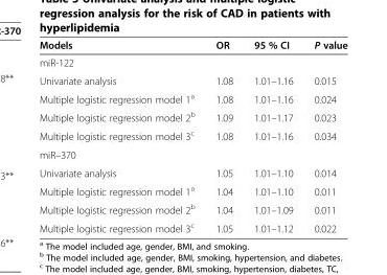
<table><thead><tr><td>Models</td><td>OR</td><td>95 % CI</td><td>P value</td></tr></thead><tbody><tr><td colspan="4">miR-122</td></tr><tr><td>Univariate analysis</td><td>1.08</td><td>1.01–1.16</td><td>0.015</td></tr><tr><td>Multiple logistic regression model 1<sup>a</sup></td><td>1.08</td><td>1.01–1.16</td><td>0.024</td></tr><tr><td>Multiple logistic regression model 2<sup>b</sup></td><td>1.09</td><td>1.01–1.17</td><td>0.023</td></tr><tr><td>Multiple logistic regression model 3<sup>c</sup></td><td>1.08</td><td>1.01–1.16</td><td>0.034</td></tr><tr><td colspan="4">miR–370</td></tr><tr><td>Univariate analysis</td><td>1.05</td><td>1.01–1.10</td><td>0.014</td></tr><tr><td>Multiple logistic regression model 1<sup>a</sup></td><td>1.04</td><td>1.01–1.10</td><td>0.011</td></tr><tr><td>Multiple logistic regression model 2<sup>b</sup></td><td>1.04</td><td>1.01–1.09</td><td>0.011</td></tr><tr><td>Multiple logistic regression model 3<sup>c</sup></td><td>1.05</td><td>1.01–1.12</td><td>0.022</td></tr></tbody></table>